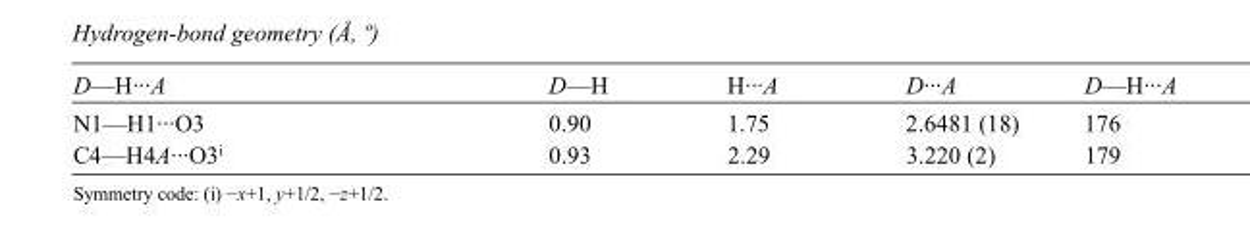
<table><tbody><tr><td>D—H···A</td><td>D—H</td><td>H···A</td><td>D···A</td><td>D—H···A</td></tr><tr><td>N1—H1···O3</td><td>0.90</td><td>1.75</td><td>2.6481 (18)</td><td>176</td></tr><tr><td>C4—H4A···O3<sup>i</sup></td><td>0.93</td><td>2.29</td><td>3.220 (2)</td><td>179</td></tr></tbody></table>